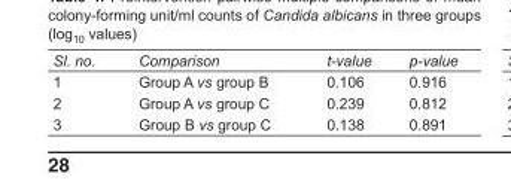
<table><tbody><tr><td>Sl. no.</td><td>Comparison</td><td>t-value</td><td>p-value</td></tr><tr><td>1</td><td>Group A vs group B</td><td>0.106</td><td>0.916</td></tr><tr><td>2</td><td>Group A vs group C</td><td>0.239</td><td>0.812</td></tr><tr><td>3</td><td>Group B vs group C</td><td>0.138</td><td>0.891</td></tr></tbody></table>